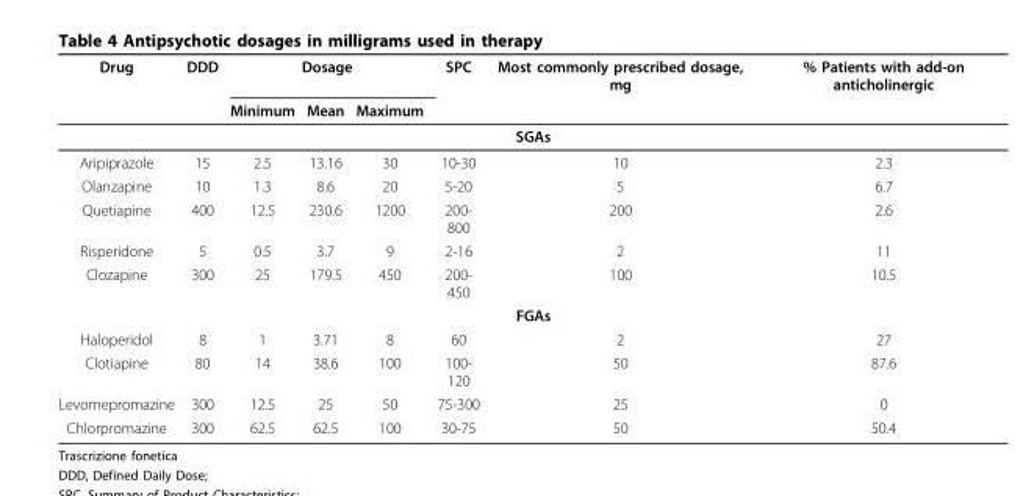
<table><thead><tr><td rowspan="2">Drug</td><td rowspan="2">DDD</td><td colspan="3">Dosage</td><td rowspan="2">SPC</td><td rowspan="2">Most commonly prescribed dosage, mg</td><td rowspan="2">% Patients with add-on anticholinergic</td></tr><tr><td>Minimum</td><td>Mean</td><td>Maximum</td></tr></thead><tbody><tr><td colspan="8">SGAs</td></tr><tr><td>Aripiprazole</td><td>15</td><td>2.5</td><td>13.16</td><td>30</td><td>10-30</td><td>10</td><td>2.3</td></tr><tr><td>Olanzapine</td><td>10</td><td>1.3</td><td>8.6</td><td>20</td><td>5-20</td><td>5</td><td>6.7</td></tr><tr><td>Quetiapine</td><td>400</td><td>12.5</td><td>230.6</td><td>1200</td><td>200- 800</td><td>200</td><td>2.6</td></tr><tr><td>Risperidone</td><td>5</td><td>0.5</td><td>3.7</td><td>9</td><td>2-16</td><td>2</td><td>11</td></tr><tr><td>Clozapine</td><td>300</td><td>25</td><td>179.5</td><td>450</td><td>200- 450</td><td>100</td><td>10.5</td></tr><tr><td colspan="8">FGAs</td></tr><tr><td>Haloperidol</td><td>8</td><td>1</td><td>3.71</td><td>8</td><td>60</td><td>2</td><td>27</td></tr><tr><td>Clotiapine</td><td>80</td><td>14</td><td>38.6</td><td>100</td><td>100- 120</td><td>50</td><td>87.6</td></tr><tr><td>Levomepromazine</td><td>300</td><td>12.5</td><td>25</td><td>50</td><td>75-300</td><td>25</td><td>0</td></tr><tr><td>Chlorpromazine</td><td>300</td><td>62.5</td><td>62.5</td><td>100</td><td>30-75</td><td>50</td><td>50.4</td></tr></tbody></table>